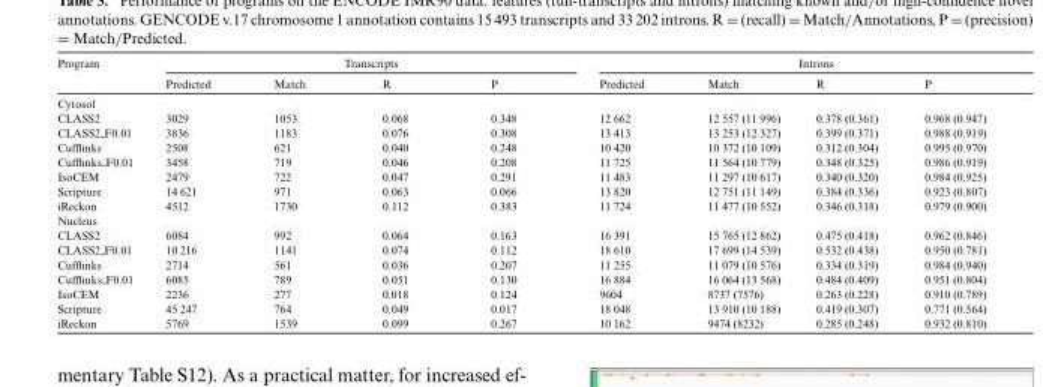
<table><thead><tr><td rowspan="2">Program</td><td colspan="4">Transcripts</td><td colspan="4">Introns</td></tr><tr><td>Predicted</td><td>Match</td><td>R</td><td>P</td><td>Predicted</td><td>Match</td><td>R</td><td>P</td></tr></thead><tbody><tr><td colspan="9">Cytosol</td></tr><tr><td>CLASS2</td><td>3029</td><td>1053</td><td>0.068</td><td>0.348</td><td>12 662</td><td>12 557 (11 996)</td><td>0.378 (0.361)</td><td>0.968 (0.947)</td></tr><tr><td>CLASS2 F0.01</td><td>3836</td><td>1183</td><td>0.076</td><td>0.308</td><td>13 413</td><td>13 253 (12 327)</td><td>0.399 (0.371)</td><td>0.988 (0.919)</td></tr><tr><td>Cufflinks</td><td>2508</td><td>621</td><td>0.040</td><td>0.248</td><td>10 420</td><td>10 372 (10 109)</td><td>0.312 (0.304)</td><td>0.995 (0.970)</td></tr><tr><td>Cufflinks F0.01</td><td>3458</td><td>719</td><td>0.046</td><td>0.208</td><td>11 725</td><td>11 564 (10 779)</td><td>0.348 (0.325)</td><td>0.986 (0.919)</td></tr><tr><td>IsoCEM</td><td>2479</td><td>722</td><td>0.047</td><td>0.291</td><td>11 483</td><td>11 297 (10 617)</td><td>0.340 (0.320)</td><td>0.984 (0.925)</td></tr><tr><td>Scripture</td><td>14 621</td><td>971</td><td>0.063</td><td>0.066</td><td>13 820</td><td>12 751 (11 149)</td><td>0.384 (0.336)</td><td>0.923 (0.807)</td></tr><tr><td>iReckon</td><td>4512</td><td>1730</td><td>0.112</td><td>0.383</td><td>11 724</td><td>11 477 (10 552)</td><td>0.346 (0.318)</td><td>0.979 (0.900)</td></tr><tr><td colspan="9">Nucleus</td></tr><tr><td>CLASS2</td><td>6084</td><td>992</td><td>0.064</td><td>0.163</td><td>16 391</td><td>15 765 (12 862)</td><td>0.475 (0.418)</td><td>0.962 (0.846)</td></tr><tr><td>CLASS2 F0.01</td><td>10 216</td><td>1141</td><td>0.074</td><td>0.112</td><td>18 610</td><td>17 699 (14 539)</td><td>0.532 (0.438)</td><td>0.950 (0.781)</td></tr><tr><td>Cufflinks</td><td>2714</td><td>561</td><td>0.036</td><td>0.207</td><td>11 255</td><td>11 079 (10 576)</td><td>0.334 (0.319)</td><td>0.984 (0.940)</td></tr><tr><td>Cufflinks F0.01</td><td>6085</td><td>789</td><td>0.051</td><td>0.130</td><td>16 884</td><td>16 064 (13 568)</td><td>0.484 (0.409)</td><td>0.951 (0.804)</td></tr><tr><td>IsoCEM</td><td>2236</td><td>277</td><td>0.018</td><td>0.124</td><td>9604</td><td>8737 (7576)</td><td>0.263 (0.228)</td><td>0.910 (0.789)</td></tr><tr><td>Scripture</td><td>45 247</td><td>764</td><td>0.049</td><td>0.017</td><td>18 048</td><td>13 910 (10 188)</td><td>0.419 (0.307)</td><td>0.771 (0.564)</td></tr><tr><td>iReckon</td><td>5769</td><td>1539</td><td>0.099</td><td>0.267</td><td>10 162</td><td>9474 (8232)</td><td>0.285 (0.248)</td><td>0.932 (0.810)</td></tr></tbody></table>